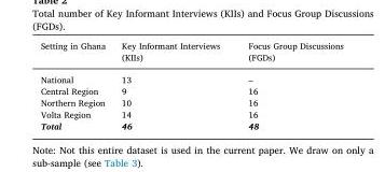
<table><thead><tr><td>Setting in Ghana</td><td>Key Informant Interviews (KIIs)</td><td>Focus Group Discussions (FGDs)</td></tr></thead><tbody><tr><td>National</td><td>13</td><td>–</td></tr><tr><td>Central Region</td><td>9</td><td>16</td></tr><tr><td>Northern Region</td><td>10</td><td>16</td></tr><tr><td>Volta Region</td><td>14</td><td>16</td></tr><tr><td>Total</td><td>46</td><td>48</td></tr></tbody></table>